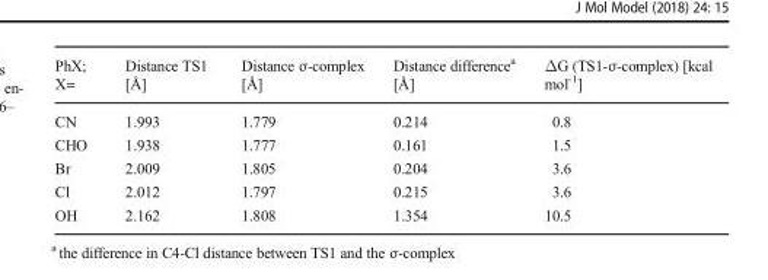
<table><thead><tr><td>PhX; X=</td><td>Distance TS1 [Å]</td><td>Distance σ-complex [Å]</td><td>Distance difference<sup>a</sup> [Å]</td><td>ΔG (TS1-σ-complex) [kcal mol<sup>-1</sup>]</td></tr></thead><tbody><tr><td>CN</td><td>1.993</td><td>1.779</td><td>0.214</td><td>0.8</td></tr><tr><td>CHO</td><td>1.938</td><td>1.777</td><td>0.161</td><td>1.5</td></tr><tr><td>Br</td><td>2.009</td><td>1.805</td><td>0.204</td><td>3.6</td></tr><tr><td>Cl</td><td>2.012</td><td>1.797</td><td>0.215</td><td>3.6</td></tr><tr><td>OH</td><td>2.162</td><td>1.808</td><td>1.354</td><td>10.5</td></tr></tbody></table>